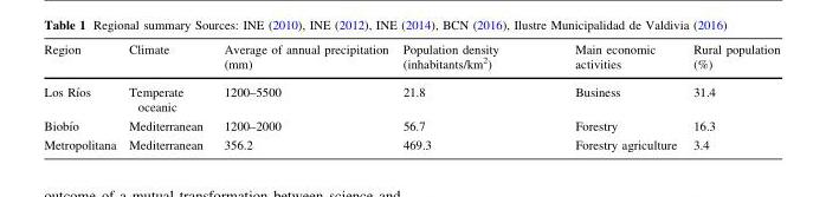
<table><thead><tr><td>Region</td><td>Climate</td><td>Average of annual precipitation (mm)</td><td>Population density (inhabitants/km<sup>2</sup>)</td><td>Main economic activities</td><td>Rural population (%)</td></tr></thead><tbody><tr><td>Los Rı´os</td><td>Temperate oceanic</td><td>1200–5500</td><td>21.8</td><td>Business</td><td>31.4</td></tr><tr><td>Biobı´o</td><td>Mediterranean</td><td>1200–2000</td><td>56.7</td><td>Forestry</td><td>16.3</td></tr><tr><td>Metropolitana</td><td>Mediterranean</td><td>356.2</td><td>469.3</td><td>Forestry agriculture</td><td>3.4</td></tr></tbody></table>